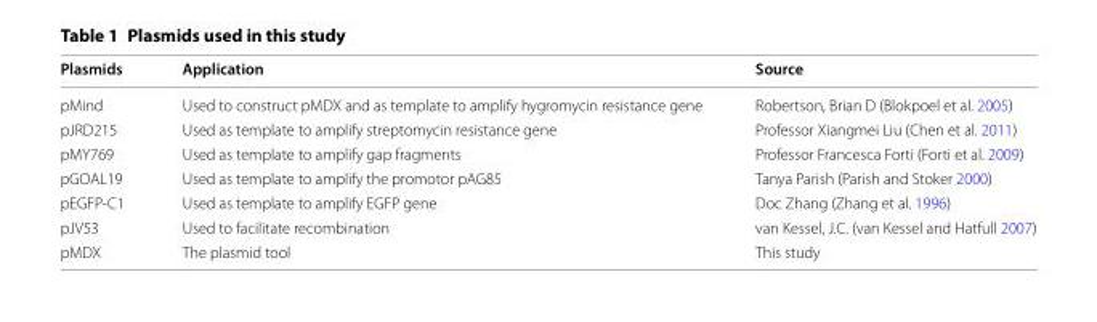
<table><thead><tr><td>Plasmids</td><td>Application</td><td>Source</td></tr></thead><tbody><tr><td>pMind</td><td>Used to construct pMDX and as template to amplify hygromycin resistance gene</td><td>Robertson, Brian D (Blokpoel et al. 2005)</td></tr><tr><td>pJRD215</td><td>Used as template to amplify streptomycin resistance gene</td><td>Professor Xiangmei Liu (Chen et al. 2011)</td></tr><tr><td>pMY769</td><td>Used as template to amplify gap fragments</td><td>Professor Francesca Forti (Forti et al. 2009)</td></tr><tr><td>pGOAL19</td><td>Used as template to amplify the promotor pAG85</td><td>Tanya Parish (Parish and Stoker 2000)</td></tr><tr><td>pEGFP-C1</td><td>Used as template to amplify EGFP gene</td><td>Doc Zhang (Zhang et al. 1996)</td></tr><tr><td>pJV53</td><td>Used to facilitate recombination</td><td>van Kessel, J.C. (van Kessel and Hatfull 2007)</td></tr><tr><td>pMDX</td><td>The plasmid tool</td><td>This study</td></tr></tbody></table>